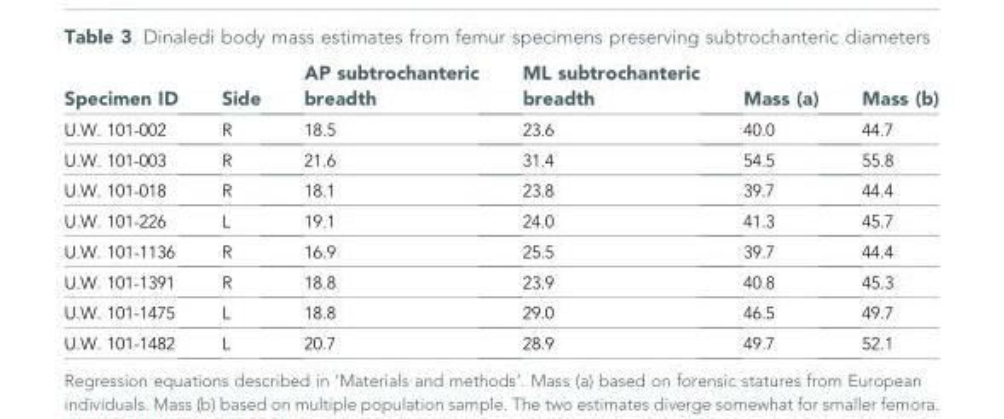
<table><thead><tr><td>Specimen ID</td><td>Side</td><td>AP subtrochanteric breadth</td><td>ML subtrochanteric breadth</td><td>Mass (a)</td><td>Mass (b)</td></tr></thead><tbody><tr><td>U.W. 101-002</td><td>R</td><td>18.5</td><td>23.6</td><td>40.0</td><td>44.7</td></tr><tr><td>U.W. 101-003</td><td>R</td><td>21.6</td><td>31.4</td><td>54.5</td><td>55.8</td></tr><tr><td>U.W. 101-018</td><td>R</td><td>18.1</td><td>23.8</td><td>39.7</td><td>44.4</td></tr><tr><td>U.W. 101-226</td><td>L</td><td>19.1</td><td>24.0</td><td>41.3</td><td>45.7</td></tr><tr><td>U.W. 101-1136</td><td>R</td><td>16.9</td><td>25.5</td><td>39.7</td><td>44.4</td></tr><tr><td>U.W. 101-1391</td><td>R</td><td>18.8</td><td>23.9</td><td>40.8</td><td>45.3</td></tr><tr><td>U.W. 101-1475</td><td>L</td><td>18.8</td><td>29.0</td><td>46.5</td><td>49.7</td></tr><tr><td>U.W. 101-1482</td><td>L</td><td>20.7</td><td>28.9</td><td>49.7</td><td>52.1</td></tr></tbody></table>